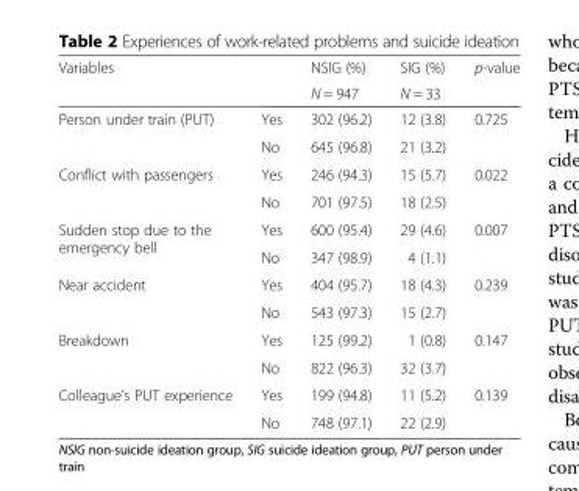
<table><thead><tr><td rowspan="2">Variables</td><td rowspan="2"></td><td rowspan="2">NSIG (%) N = 947</td><td rowspan="2">SIG (%) N = 33</td><td rowspan="2">p-value</td></tr><tr></tr></thead><tbody><tr><td rowspan="2">Person under train (PUT)</td><td>Yes</td><td>302 (96.2)</td><td>12 (3.8)</td><td>0.725</td></tr><tr><td>No</td><td>645 (96.8)</td><td>21 (3.2)</td><td></td></tr><tr><td rowspan="2">Conflict with passengers</td><td>Yes</td><td>246 (94.3)</td><td>15 (5.7)</td><td>0.022</td></tr><tr><td>No</td><td>701 (97.5)</td><td>18 (2.5)</td><td></td></tr><tr><td rowspan="2">Sudden stop due to the emergency bell</td><td>Yes</td><td>600 (95.4)</td><td>29 (4.6)</td><td>0.007</td></tr><tr><td>No</td><td>347 (98.9)</td><td>4 (1.1)</td><td></td></tr><tr><td rowspan="2">Near accident</td><td>Yes</td><td>404 (95.7)</td><td>18 (4.3)</td><td>0.239</td></tr><tr><td>No</td><td>543 (97.3)</td><td>15 (2.7)</td><td></td></tr><tr><td rowspan="2">Breakdown</td><td>Yes</td><td>125 (99.2)</td><td>1 (0.8)</td><td>0.147</td></tr><tr><td>No</td><td>822 (96.3)</td><td>32 (3.7)</td><td></td></tr><tr><td rowspan="2">Colleague’s PUT experience</td><td>Yes</td><td>199 (94.8)</td><td>11 (5.2)</td><td>0.139</td></tr><tr><td>No</td><td>748 (97.1)</td><td>22 (2.9)</td><td></td></tr></tbody></table>